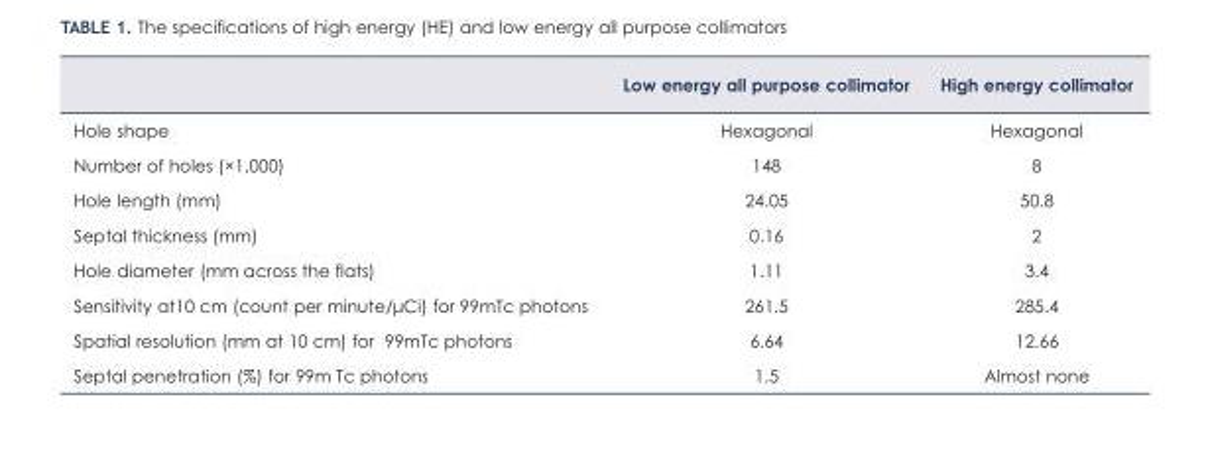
<table><thead><tr><td></td><td>Low energy all purpose collimator</td><td>High energy collimator</td></tr></thead><tbody><tr><td>Hole shape</td><td>Hexagonal</td><td>Hexagonal</td></tr><tr><td>Number of holes (×1,000)</td><td>148</td><td>8</td></tr><tr><td>Hole length (mm)</td><td>24.05</td><td>50.8</td></tr><tr><td>Septal thickness (mm)</td><td>0.16</td><td>2</td></tr><tr><td>Hole diameter (mm across the flats)</td><td>1.11</td><td>3.4</td></tr><tr><td>Sensitivity at10 cm (count per minute/μCi) for 99mTc photons</td><td>261.5</td><td>285.4</td></tr><tr><td>Spatial resolution (mm at 10 cm) for 99mTc photons</td><td>6.64</td><td>12.66</td></tr><tr><td>Septal penetration (%) for 99m Tc photons</td><td>1.5</td><td>Almost none</td></tr></tbody></table>